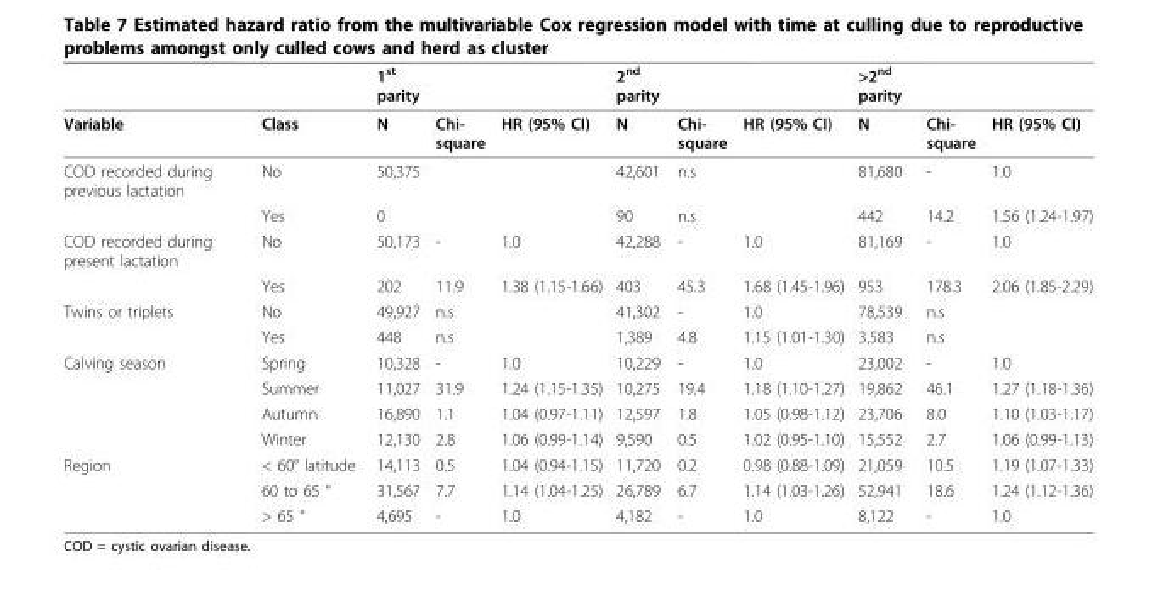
<table><thead><tr><td></td><td></td><td>1<sup>st</sup> parity</td><td></td><td></td><td>2<sup>nd</sup> parity</td><td></td><td></td><td>&gt;2<sup>nd</sup> parity</td><td></td><td></td></tr></thead><tbody><tr><td>Variable</td><td>Class</td><td>N</td><td>Chi- square</td><td>HR (95% CI)</td><td>N</td><td>Chi- square</td><td>HR (95% CI)</td><td>N</td><td>Chi- square</td><td>HR (95% CI)</td></tr><tr><td rowspan="2">COD recorded during previous lactation</td><td>No</td><td>50,375</td><td></td><td></td><td>42,601</td><td>n.s</td><td></td><td>81,680</td><td>-</td><td>1.0</td></tr><tr><td>Yes</td><td>0</td><td></td><td></td><td>90</td><td>n.s</td><td></td><td>442</td><td>14.2</td><td>1.56 (1.24-1.97)</td></tr><tr><td rowspan="2">COD recorded during present lactation</td><td>No</td><td>50,173</td><td>-</td><td>1.0</td><td>42,288</td><td>-</td><td>1.0</td><td>81,169</td><td>-</td><td>1.0</td></tr><tr><td>Yes</td><td>202</td><td>11.9</td><td>1.38 (1.15-1.66)</td><td>403</td><td>45.3</td><td>1.68 (1.45-1.96)</td><td>953</td><td>178.3</td><td>2.06 (1.85-2.29)</td></tr><tr><td rowspan="2">Twins or triplets</td><td>No</td><td>49,927</td><td>n.s</td><td></td><td>41,302</td><td>-</td><td>1.0</td><td>78,539</td><td>n.s</td><td></td></tr><tr><td>Yes</td><td>448</td><td>n.s</td><td></td><td>1,389</td><td>4.8</td><td>1.15 (1.01-1.30)</td><td>3,583</td><td>n.s</td><td></td></tr><tr><td rowspan="4">Calving season</td><td>Spring</td><td>10,328</td><td>-</td><td>1.0</td><td>10,229</td><td>-</td><td>1.0</td><td>23,002</td><td>-</td><td>1.0</td></tr><tr><td>Summer</td><td>11,027</td><td>31.9</td><td>1.24 (1.15-1.35)</td><td>10,275</td><td>19.4</td><td>1.18 (1.10-1.27)</td><td>19,862</td><td>46.1</td><td>1.27 (1.18-1.36)</td></tr><tr><td>Autumn</td><td>16,890</td><td>1.1</td><td>1.04 (0.97-1.11)</td><td>12,597</td><td>1.8</td><td>1.05 (0.98-1.12)</td><td>23,706</td><td>8.0</td><td>1.10 (1.03-1.17)</td></tr><tr><td>Winter</td><td>12,130</td><td>2.8</td><td>1.06 (0.99-1.14)</td><td>9,590</td><td>0.5</td><td>1.02 (0.95-1.10)</td><td>15,552</td><td>2.7</td><td>1.06 (0.99-1.13)</td></tr><tr><td rowspan="3">Region</td><td>&lt; 60° latitude</td><td>14,113</td><td>0.5</td><td>1.04 (0.94-1.15)</td><td>11,720</td><td>0.2</td><td>0.98 (0.88-1.09)</td><td>21,059</td><td>10.5</td><td>1.19 (1.07-1.33)</td></tr><tr><td>60 to 65 °</td><td>31,567</td><td>7.7</td><td>1.14 (1.04-1.25)</td><td>26,789</td><td>6.7</td><td>1.14 (1.03-1.26)</td><td>52,941</td><td>18.6</td><td>1.24 (1.12-1.36)</td></tr><tr><td>&gt; 65 °</td><td>4,695</td><td>-</td><td>1.0</td><td>4,182</td><td>-</td><td>1.0</td><td>8,122</td><td>-</td><td>1.0</td></tr></tbody></table>